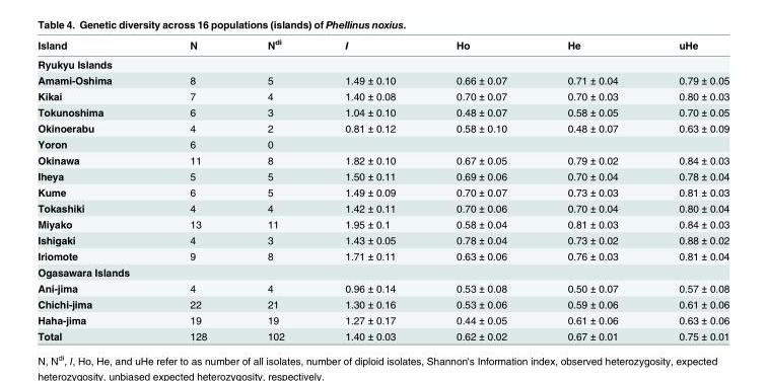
<table><thead><tr><td>Island</td><td>N</td><td>N<sup>di</sup></td><td>I</td><td>Ho</td><td>He</td><td>uHe</td></tr></thead><tbody><tr><td colspan="7">Ryukyu Islands</td></tr><tr><td>Amami-Oshima</td><td>8</td><td>5</td><td>1.49 ± 0.10</td><td>0.66 ± 0.07</td><td>0.71 ± 0.04</td><td>0.79 ± 0.05</td></tr><tr><td>Kikai</td><td>7</td><td>4</td><td>1.40 ± 0.08</td><td>0.70 ± 0.07</td><td>0.70 ± 0.03</td><td>0.80 ± 0.03</td></tr><tr><td>Tokunoshima</td><td>6</td><td>3</td><td>1.04 ± 0.10</td><td>0.48 ± 0.07</td><td>0.58 ± 0.05</td><td>0.70 ± 0.05</td></tr><tr><td>Okinoerabu</td><td>4</td><td>2</td><td>0.81 ± 0.12</td><td>0.58 ± 0.10</td><td>0.48 ± 0.07</td><td>0.63 ± 0.09</td></tr><tr><td>Yoron</td><td>6</td><td>0</td><td></td><td></td><td></td><td></td></tr><tr><td>Okinawa</td><td>11</td><td>8</td><td>1.82 ± 0.10</td><td>0.67 ± 0.05</td><td>0.79 ± 0.02</td><td>0.84 ± 0.03</td></tr><tr><td>Iheya</td><td>5</td><td>5</td><td>1.50 ± 0.11</td><td>0.69 ± 0.06</td><td>0.70 ± 0.04</td><td>0.78 ± 0.04</td></tr><tr><td>Kume</td><td>6</td><td>5</td><td>1.49 ± 0.09</td><td>0.70 ± 0.07</td><td>0.73 ± 0.03</td><td>0.81 ± 0.03</td></tr><tr><td>Tokashiki</td><td>4</td><td>4</td><td>1.42 ± 0.11</td><td>0.70 ± 0.06</td><td>0.70 ± 0.04</td><td>0.80 ± 0.04</td></tr><tr><td>Miyako</td><td>13</td><td>11</td><td>1.95 ± 0.1</td><td>0.58 ± 0.04</td><td>0.81 ± 0.03</td><td>0.84 ± 0.03</td></tr><tr><td>Ishigaki</td><td>4</td><td>3</td><td>1.43 ± 0.05</td><td>0.78 ± 0.04</td><td>0.73 ± 0.02</td><td>0.88 ± 0.02</td></tr><tr><td>Iriomote</td><td>9</td><td>8</td><td>1.71 ± 0.11</td><td>0.63 ± 0.06</td><td>0.76 ± 0.03</td><td>0.81 ± 0.04</td></tr><tr><td colspan="7">Ogasawara Islands</td></tr><tr><td>Ani-jima</td><td>4</td><td>4</td><td>0.96 ± 0.14</td><td>0.53 ± 0.08</td><td>0.50 ± 0.07</td><td>0.57 ± 0.08</td></tr><tr><td>Chichi-jima</td><td>22</td><td>21</td><td>1.30 ± 0.16</td><td>0.53 ± 0.06</td><td>0.59 ± 0.06</td><td>0.61 ± 0.06</td></tr><tr><td>Haha-jima</td><td>19</td><td>19</td><td>1.27 ± 0.17</td><td>0.44 ± 0.05</td><td>0.61 ± 0.06</td><td>0.63 ± 0.06</td></tr><tr><td>Total</td><td>128</td><td>102</td><td>1.40 ± 0.03</td><td>0.62 ± 0.02</td><td>0.67 ± 0.01</td><td>0.75 ± 0.01</td></tr></tbody></table>